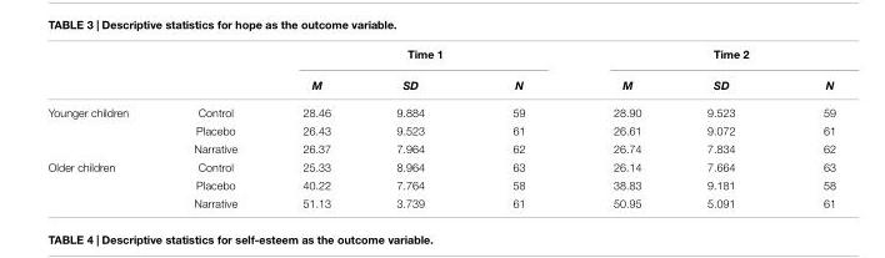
<table><thead><tr><td rowspan="2"></td><td rowspan="2"></td><td colspan="3">Time 1</td><td colspan="3">Time 2</td></tr><tr><td>M</td><td>SD</td><td>N</td><td>M</td><td>SD</td><td>N</td></tr></thead><tbody><tr><td rowspan="3">Younger children</td><td>Control</td><td>28.46</td><td>9.884</td><td>59</td><td>28.90</td><td>9.523</td><td>59</td></tr><tr><td>Placebo</td><td>26.43</td><td>9.523</td><td>61</td><td>26.61</td><td>9.072</td><td>61</td></tr><tr><td>Narrative</td><td>26.37</td><td>7.964</td><td>62</td><td>26.74</td><td>7.834</td><td>62</td></tr><tr><td rowspan="3">Older children</td><td>Control</td><td>25.33</td><td>8.964</td><td>63</td><td>26.14</td><td>7.664</td><td>63</td></tr><tr><td>Placebo</td><td>40.22</td><td>7.764</td><td>58</td><td>38.83</td><td>9.181</td><td>58</td></tr><tr><td>Narrative</td><td>51.13</td><td>3.739</td><td>61</td><td>50.95</td><td>5.091</td><td>61</td></tr></tbody></table>